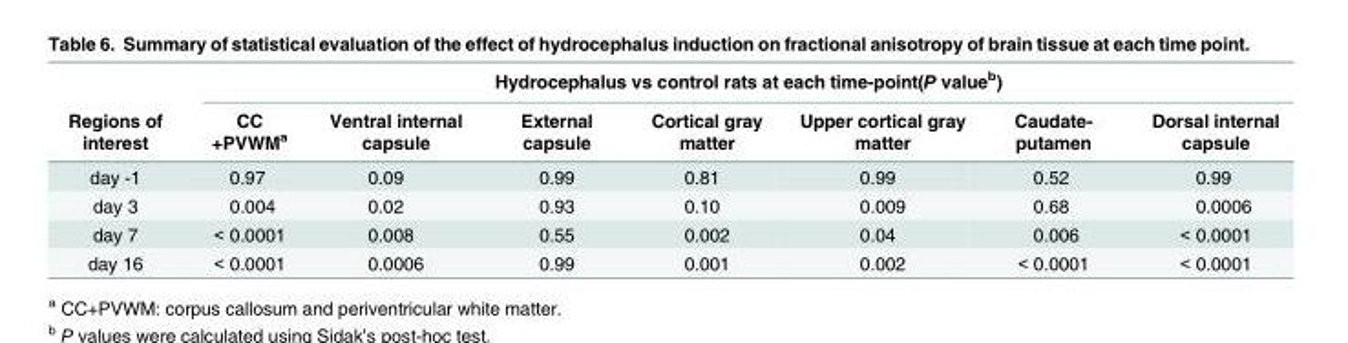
<table><thead><tr><td rowspan="2">Regions of interest</td><td colspan="7">Hydrocephalus vs control rats at each time-point(P value<sup>b</sup>)</td></tr><tr><td>CC +PVWM<sup>a</sup></td><td>Ventral internal capsule</td><td>External capsule</td><td>Cortical gray matter</td><td>Upper cortical gray matter</td><td>Caudate- putamen</td><td>Dorsal internal capsule</td></tr></thead><tbody><tr><td>day -1</td><td>0.97</td><td>0.09</td><td>0.99</td><td>0.81</td><td>0.99</td><td>0.52</td><td>0.99</td></tr><tr><td>day 3</td><td>0.004</td><td>0.02</td><td>0.93</td><td>0.10</td><td>0.009</td><td>0.68</td><td>0.0006</td></tr><tr><td>day 7</td><td>&lt; 0.0001</td><td>0.008</td><td>0.55</td><td>0.002</td><td>0.04</td><td>0.006</td><td>&lt; 0.0001</td></tr><tr><td>day 16</td><td>&lt; 0.0001</td><td>0.0006</td><td>0.99</td><td>0.001</td><td>0.002</td><td>&lt; 0.0001</td><td>&lt; 0.0001</td></tr></tbody></table>